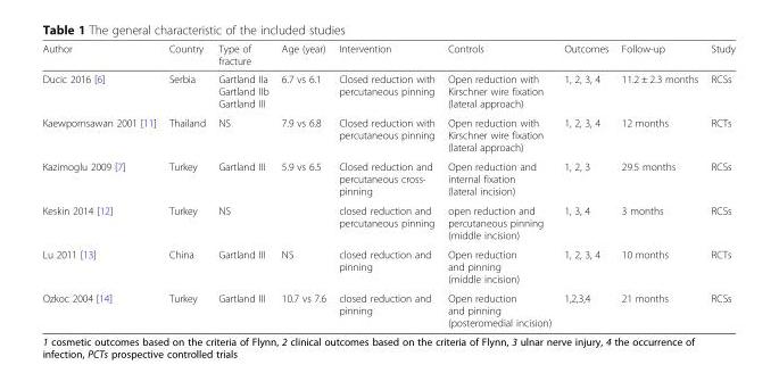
<table><thead><tr><td>Author</td><td>Country</td><td>Type of fracture</td><td>Age (year)</td><td>Intervention</td><td>Controls</td><td>Outcomes</td><td>Follow-up</td><td>Study</td></tr></thead><tbody><tr><td>Ducic 2016 [6]</td><td>Serbia</td><td>Gartland IIa Gartland IIb Gartland III</td><td>6.7 vs 6.1</td><td>Closed reduction with percutaneous pinning</td><td>Open reduction with Kirschner wire fixation (lateral approach)</td><td>1, 2, 3, 4</td><td>11.2 ± 2.3 months</td><td>RCSs</td></tr><tr><td>Kaewpornsawan 2001 [11]</td><td>Thailand</td><td>NS</td><td>7.9 vs 6.8</td><td>Closed reduction with percutaneous pinning</td><td>Open reduction with Kirschner wire fixation (lateral approach)</td><td>1, 2, 3, 4</td><td>12 months</td><td>RCTs</td></tr><tr><td>Kazimoglu 2009 [7]</td><td>Turkey</td><td>Gartland III</td><td>5.9 vs 6.5</td><td>Closed reduction and percutaneous cross- pinning</td><td>Open reduction and internal fixation (lateral incision)</td><td>1, 2, 3</td><td>29.5 months</td><td>RCSs</td></tr><tr><td>Keskin 2014 [12]</td><td>Turkey</td><td>NS</td><td></td><td>closed reduction and percutaneous pinning</td><td>open reduction and percutaneous pinning (middle incision)</td><td>1, 3, 4</td><td>3 months</td><td>RCSs</td></tr><tr><td>Lu 2011 [13]</td><td>China</td><td>Gartland III</td><td>NS</td><td>closed reduction and pinning</td><td>Open reduction and pinning (middle incision)</td><td>1, 2, 3, 4</td><td>10 months</td><td>RCTs</td></tr><tr><td>Ozkoc 2004 [14]</td><td>Turkey</td><td>Gartland III</td><td>10.7 vs 7.6</td><td>closed reduction and pinning</td><td>Open reduction and pinning (posteromedial incision)</td><td>1,2,3,4</td><td>21 months</td><td>RCSs</td></tr></tbody></table>